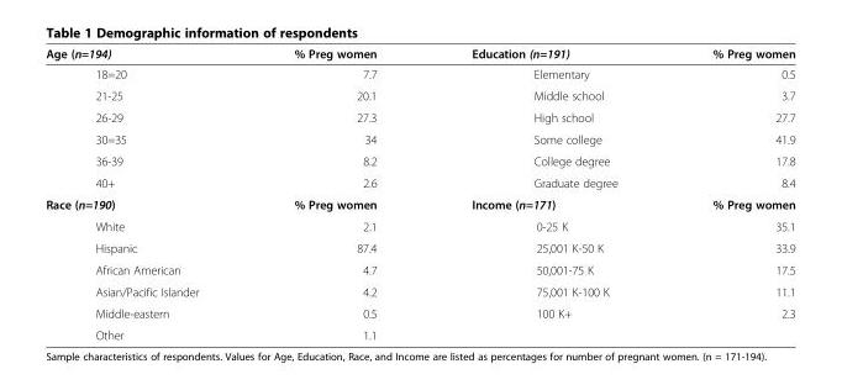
<table><thead><tr><td>Age (n=194)</td><td>% Preg women</td><td>Education (n=191)</td><td>% Preg women</td></tr></thead><tbody><tr><td>18=20</td><td>7.7</td><td>Elementary</td><td>0.5</td></tr><tr><td>21-25</td><td>20.1</td><td>Middle school</td><td>3.7</td></tr><tr><td>26-29</td><td>27.3</td><td>High school</td><td>27.7</td></tr><tr><td>30=35</td><td>34</td><td>Some college</td><td>41.9</td></tr><tr><td>36-39</td><td>8.2</td><td>College degree</td><td>17.8</td></tr><tr><td>40+</td><td>2.6</td><td>Graduate degree</td><td>8.4</td></tr><tr><td>Race (n=190)</td><td>% Preg women</td><td>Income (n=171)</td><td>% Preg women</td></tr><tr><td>White</td><td>2.1</td><td>0-25 K</td><td>35.1</td></tr><tr><td>Hispanic</td><td>87.4</td><td>25,001 K-50 K</td><td>33.9</td></tr><tr><td>African American</td><td>4.7</td><td>50,001-75 K</td><td>17.5</td></tr><tr><td>Asian/Pacific Islander</td><td>4.2</td><td>75,001 K-100 K</td><td>11.1</td></tr><tr><td>Middle-eastern</td><td>0.5</td><td>100 K+</td><td>2.3</td></tr><tr><td>Other</td><td>1.1</td><td></td><td></td></tr></tbody></table>